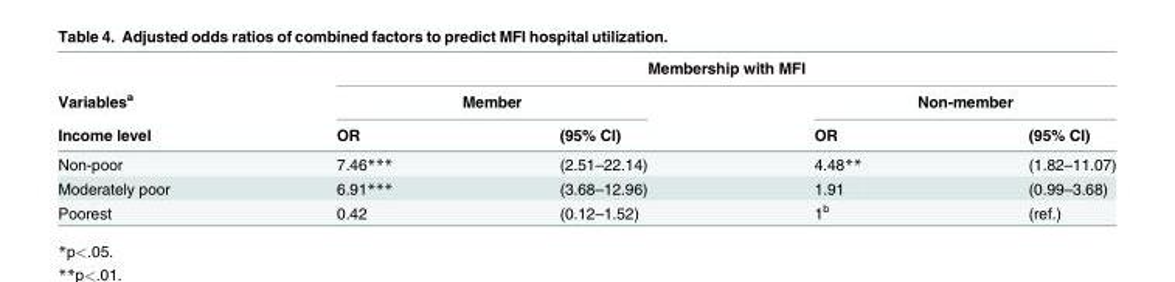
<table><thead><tr><td rowspan="3">Variables<sup>a</sup> Income level</td><td colspan="4">Membership with MFI</td></tr><tr><td colspan="2">Member</td><td colspan="2">Non-member</td></tr><tr><td>OR</td><td>(95% CI)</td><td>OR</td><td>(95% CI)</td></tr></thead><tbody><tr><td>Non-poor</td><td>7.46***</td><td>(2.51–22.14)</td><td>4.48**</td><td>(1.82–11.07)</td></tr><tr><td>Moderately poor</td><td>6.91***</td><td>(3.68–12.96)</td><td>1.91</td><td>(0.99–3.68)</td></tr><tr><td>Poorest</td><td>0.42</td><td>(0.12–1.52)</td><td>1<sup>b</sup></td><td>(ref.)</td></tr></tbody></table>